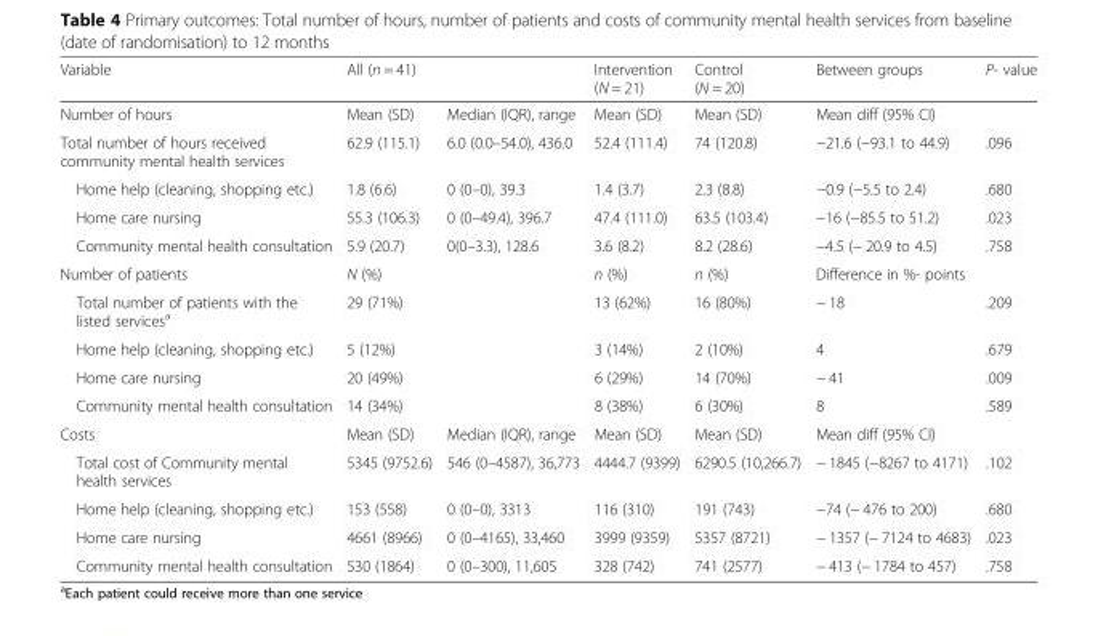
<table><thead><tr><td rowspan="2">Variable Number of hours</td><td colspan="2">All (n = 41)</td><td rowspan="2">Intervention (N = 21) Mean (SD)</td><td rowspan="2">Control (N = 20) Mean (SD)</td><td rowspan="2">Between groups Mean diff (95% CI)</td><td rowspan="2">P- value</td></tr><tr><td>Mean (SD)</td><td>Median (IQR), range</td></tr></thead><tbody><tr><td>Total number of hours received community mental health services</td><td>62.9 (115.1)</td><td>6.0 (0.0–54.0), 436.0</td><td>52.4 (111.4)</td><td>74 (120.8)</td><td>−21.6 (−93.1 to 44.9)</td><td>.096</td></tr><tr><td>Home help (cleaning, shopping etc.)</td><td>1.8 (6.6)</td><td>0 (0–0), 39.3</td><td>1.4 (3.7)</td><td>2.3 (8.8)</td><td>−0.9 (−5.5 to 2.4)</td><td>.680</td></tr><tr><td>Home care nursing</td><td>55.3 (106.3)</td><td>0 (0–49.4), 396.7</td><td>47.4 (111.0)</td><td>63.5 (103.4)</td><td>−16 (−85.5 to 51.2)</td><td>.023</td></tr><tr><td>Community mental health consultation</td><td>5.9 (20.7)</td><td>0(0–3.3), 128.6</td><td>3.6 (8.2)</td><td>8.2 (28.6)</td><td>−4.5 (− 20.9 to 4.5)</td><td>.758</td></tr><tr><td>Number of patients</td><td>N (%)</td><td></td><td>n (%)</td><td>n (%)</td><td>Difference in %- points</td><td></td></tr><tr><td>Total number of patients with the listed services<sup>a</sup></td><td>29 (71%)</td><td></td><td>13 (62%)</td><td>16 (80%)</td><td>− 18</td><td>.209</td></tr><tr><td>Home help (cleaning, shopping etc.)</td><td>5 (12%)</td><td></td><td>3 (14%)</td><td>2 (10%)</td><td>4</td><td>.679</td></tr><tr><td>Home care nursing</td><td>20 (49%)</td><td></td><td>6 (29%)</td><td>14 (70%)</td><td>− 41</td><td>.009</td></tr><tr><td>Community mental health consultation</td><td>14 (34%)</td><td></td><td>8 (38%)</td><td>6 (30%)</td><td>8</td><td>.589</td></tr><tr><td>Costs</td><td>Mean (SD)</td><td>Median (IQR), range</td><td>Mean (SD)</td><td>Mean (SD)</td><td>Mean diff (95% CI)</td><td></td></tr><tr><td>Total cost of Community mental health services</td><td>5345 (9752.6)</td><td>546 (0–4587), 36,773</td><td>4444.7 (9399)</td><td>6290.5 (10,266.7)</td><td>− 1845 (−8267 to 4171)</td><td>.102</td></tr><tr><td>Home help (cleaning, shopping etc.)</td><td>153 (558)</td><td>0 (0–0), 3313</td><td>116 (310)</td><td>191 (743)</td><td>−74 (− 476 to 200)</td><td>.680</td></tr><tr><td>Home care nursing</td><td>4661 (8966)</td><td>0 (0–4165), 33,460</td><td>3999 (9359)</td><td>5357 (8721)</td><td>− 1357 (− 7124 to 4683)</td><td>.023</td></tr><tr><td>Community mental health consultation</td><td>530 (1864)</td><td>0 (0–300), 11,605</td><td>328 (742)</td><td>741 (2577)</td><td>− 413 (− 1784 to 457)</td><td>.758</td></tr></tbody></table>